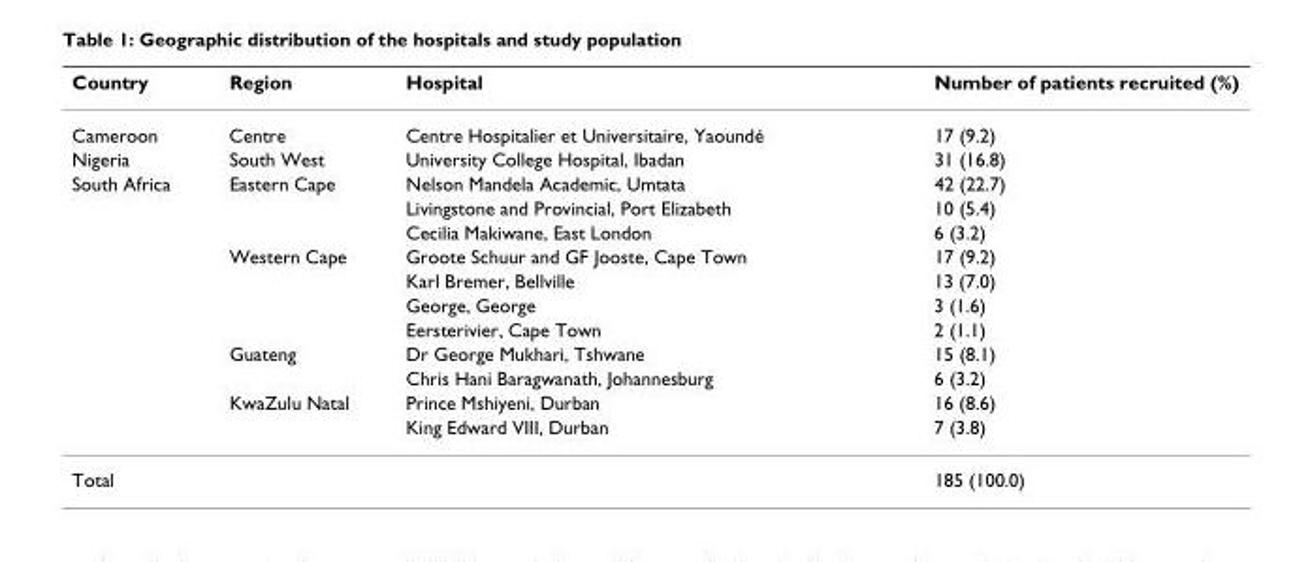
<table><thead><tr><td>Country</td><td>Region</td><td>Hospital</td><td>Number of patients recruited (%)</td></tr></thead><tbody><tr><td>Cameroon</td><td>Centre</td><td>Centre Hospitalier et Universitaire, Yaoundé</td><td>17 (9.2)</td></tr><tr><td>Nigeria</td><td>South West</td><td>University College Hospital, Ibadan</td><td>31 (16.8)</td></tr><tr><td rowspan="11">South Africa</td><td>Eastern Cape</td><td>Nelson Mandela Academic, Umtata</td><td>42 (22.7)</td></tr><tr><td></td><td>Livingstone and Provincial, Port Elizabeth</td><td>10 (5.4)</td></tr><tr><td></td><td>Cecilia Makiwane, East London</td><td>6 (3.2)</td></tr><tr><td>Western Cape</td><td>Groote Schuur and GF Jooste, Cape Town</td><td>17 (9.2)</td></tr><tr><td></td><td>Karl Bremer, Bellville</td><td>13 (7.0)</td></tr><tr><td></td><td>George, George</td><td>3 (1.6)</td></tr><tr><td></td><td>Eersterivier, Cape Town</td><td>2 (1.1)</td></tr><tr><td>Guateng</td><td>Dr George Mukhari, Tshwane</td><td>15 (8.1)</td></tr><tr><td></td><td>Chris Hani Baragwanath, Johannesburg</td><td>6 (3.2)</td></tr><tr><td>KwaZulu Natal</td><td>Prince Mshiyeni, Durban</td><td>16 (8.6)</td></tr><tr><td></td><td>King Edward VIII, Durban</td><td>7 (3.8)</td></tr><tr><td>Total</td><td></td><td></td><td>185 (100.0)</td></tr></tbody></table>